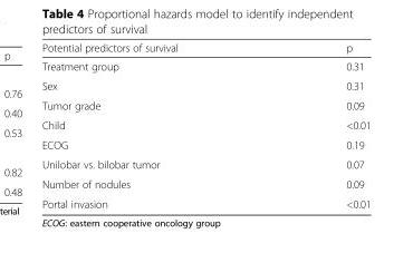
<table><thead><tr><td>Potential predictors of survival</td><td>p</td></tr></thead><tbody><tr><td>Treatment group</td><td>0.31</td></tr><tr><td>Sex</td><td>0.31</td></tr><tr><td>Tumor grade</td><td>0.09</td></tr><tr><td>Child</td><td>&lt;0.01</td></tr><tr><td>ECOG</td><td>0.19</td></tr><tr><td>Unilobar vs. bilobar tumor</td><td>0.07</td></tr><tr><td>Number of nodules</td><td>0.09</td></tr><tr><td>Portal invasion</td><td>&lt;0.01</td></tr></tbody></table>